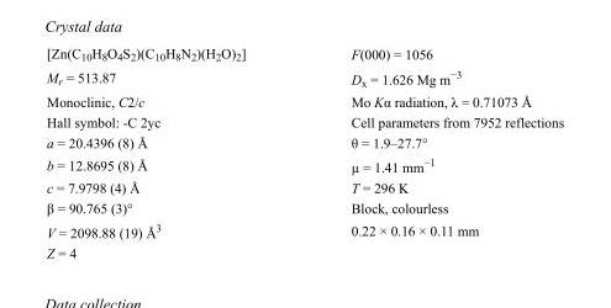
<table><tbody><tr><td>[Zn(C<sub>10</sub>H<sub>8</sub>O<sub>4</sub>S<sub>2</sub>)(C<sub>10</sub>H<sub>8</sub>N<sub>2</sub>)(H<sub>2</sub>O)<sub>2</sub>]</td><td>F(000) = 1056</td></tr><tr><td>M<sub>r</sub> = 513.87</td><td>D<sub>x</sub> = 1.626 Mg m<sup>−3</sup></td></tr><tr><td>Monoclinic, C2/c</td><td>Mo Kα radiation, λ = 0.71073 Å</td></tr><tr><td>Hall symbol: -C 2yc</td><td>Cell parameters from 7952 reflections</td></tr><tr><td>a = 20.4396 (8) Å</td><td>θ = 1.9–27.7°</td></tr><tr><td>b = 12.8695 (8) Å</td><td>µ = 1.41 mm<sup>−1</sup></td></tr><tr><td>c = 7.9798 (4) Å</td><td>T = 296 K</td></tr><tr><td>β = 90.765 (3)°</td><td>Block, colourless</td></tr><tr><td>V = 2098.88 (19) Å<sup>3</sup></td><td>0.22 × 0.16 × 0.11 mm</td></tr><tr><td>Z = 4</td><td></td></tr></tbody></table>